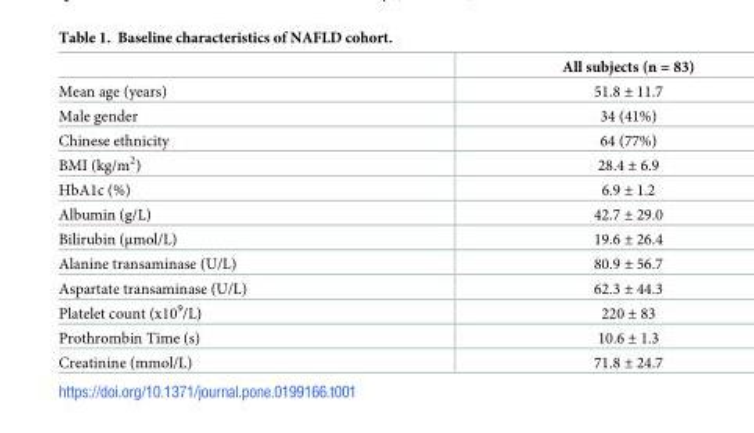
<table><thead><tr><td></td><td>All subjects (n = 83)</td></tr></thead><tbody><tr><td>Mean age (years)</td><td>51.8 ± 11.7</td></tr><tr><td>Male gender</td><td>34 (41%)</td></tr><tr><td>Chinese ethnicity</td><td>64 (77%)</td></tr><tr><td>BMI (kg/m<sup>2</sup>)</td><td>28.4 ± 6.9</td></tr><tr><td>HbA1c (%)</td><td>6.9 ± 1.2</td></tr><tr><td>Albumin (g/L)</td><td>42.7 ± 29.0</td></tr><tr><td>Bilirubin (μmol/L)</td><td>19.6 ± 26.4</td></tr><tr><td>Alanine transaminase (U/L)</td><td>80.9 ± 56.7</td></tr><tr><td>Aspartate transaminase (U/L)</td><td>62.3 ± 44.3</td></tr><tr><td>Platelet count (x10<sup>9</sup>/L)</td><td>220 ± 83</td></tr><tr><td>Prothrombin Time (s)</td><td>10.6 ± 1.3</td></tr><tr><td>Creatinine (mmol/L)</td><td>71.8 ± 24.7</td></tr></tbody></table>